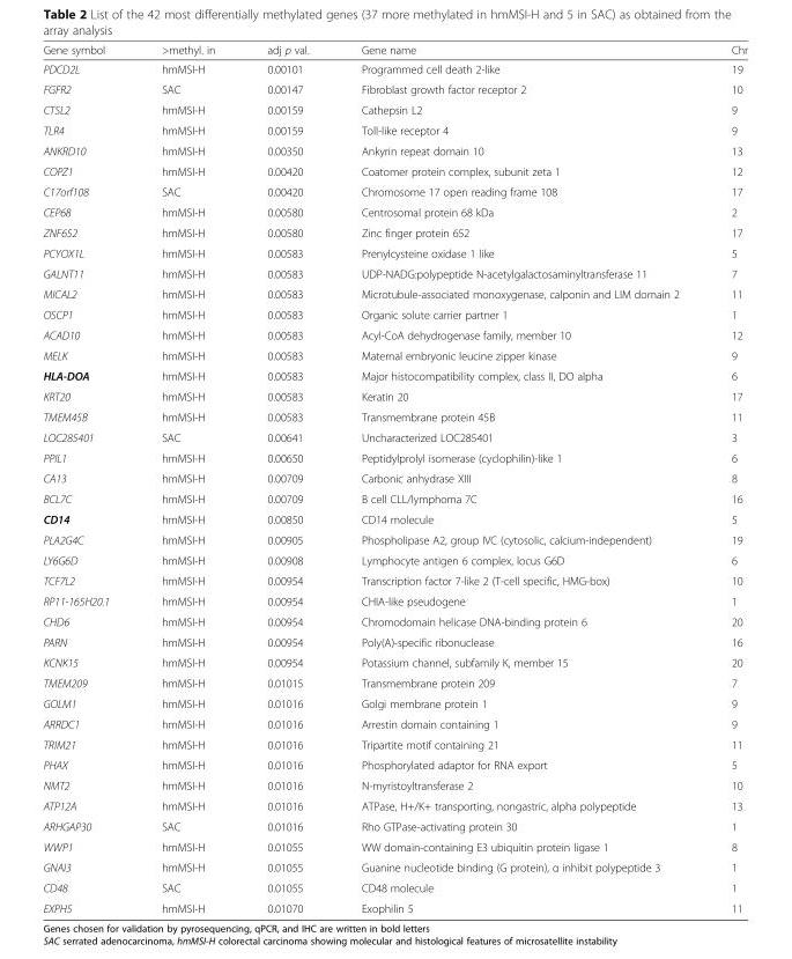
<table><thead><tr><td>Gene symbol</td><td>&gt;methyl. in</td><td>adj p val.</td><td>Gene name</td><td>Chr</td></tr></thead><tbody><tr><td>PDCD2L</td><td>hmMSI-H</td><td>0.00101</td><td>Programmed cell death 2-like</td><td>19</td></tr><tr><td>FGFR2</td><td>SAC</td><td>0.00147</td><td>Fibroblast growth factor receptor 2</td><td>10</td></tr><tr><td>CTSL2</td><td>hmMSI-H</td><td>0.00159</td><td>Cathepsin L2</td><td>9</td></tr><tr><td>TLR4</td><td>hmMSI-H</td><td>0.00159</td><td>Toll-like receptor 4</td><td>9</td></tr><tr><td>ANKRD10</td><td>hmMSI-H</td><td>0.00350</td><td>Ankyrin repeat domain 10</td><td>13</td></tr><tr><td>COPZ1</td><td>hmMSI-H</td><td>0.00420</td><td>Coatomer protein complex, subunit zeta 1</td><td>12</td></tr><tr><td>C17orf108</td><td>SAC</td><td>0.00420</td><td>Chromosome 17 open reading frame 108</td><td>17</td></tr><tr><td>CEP68</td><td>hmMSI-H</td><td>0.00580</td><td>Centrosomal protein 68 kDa</td><td>2</td></tr><tr><td>ZNF652</td><td>hmMSI-H</td><td>0.00580</td><td>Zinc finger protein 652</td><td>17</td></tr><tr><td>PCYOX1L</td><td>hmMSI-H</td><td>0.00583</td><td>Prenylcysteine oxidase 1 like</td><td>5</td></tr><tr><td>GALNT11</td><td>hmMSI-H</td><td>0.00583</td><td>UDP-NADG:polypeptide N-acetylgalactosaminyltransferase 11</td><td>7</td></tr><tr><td>MICAL2</td><td>hmMSI-H</td><td>0.00583</td><td>Microtubule-associated monoxygenase, calponin and LIM domain 2</td><td>11</td></tr><tr><td>OSCP1</td><td>hmMSI-H</td><td>0.00583</td><td>Organic solute carrier partner 1</td><td>1</td></tr><tr><td>ACAD10</td><td>hmMSI-H</td><td>0.00583</td><td>Acyl-CoA dehydrogenase family, member 10</td><td>12</td></tr><tr><td>MELK</td><td>hmMSI-H</td><td>0.00583</td><td>Maternal embryonic leucine zipper kinase</td><td>9</td></tr><tr><td>HLA-DOA</td><td>hmMSI-H</td><td>0.00583</td><td>Major histocompatibility complex, class II, DO alpha</td><td>6</td></tr><tr><td>KRT20</td><td>hmMSI-H</td><td>0.00583</td><td>Keratin 20</td><td>17</td></tr><tr><td>TMEM45B</td><td>hmMSI-H</td><td>0.00583</td><td>Transmembrane protein 45B</td><td>11</td></tr><tr><td>LOC285401</td><td>SAC</td><td>0.00641</td><td>Uncharacterized LOC285401</td><td>3</td></tr><tr><td>PPIL1</td><td>hmMSI-H</td><td>0.00650</td><td>Peptidylprolyl isomerase (cyclophilin)-like 1</td><td>6</td></tr><tr><td>CA13</td><td>hmMSI-H</td><td>0.00709</td><td>Carbonic anhydrase XIII</td><td>8</td></tr><tr><td>BCL7C</td><td>hmMSI-H</td><td>0.00709</td><td>B cell CLL/lymphoma 7C</td><td>16</td></tr><tr><td>CD14</td><td>hmMSI-H</td><td>0.00850</td><td>CD14 molecule</td><td>5</td></tr><tr><td>PLA2G4C</td><td>hmMSI-H</td><td>0.00905</td><td>Phospholipase A2, group IVC (cytosolic, calcium-independent)</td><td>19</td></tr><tr><td>LY6G6D</td><td>hmMSI-H</td><td>0.00908</td><td>Lymphocyte antigen 6 complex, locus G6D</td><td>6</td></tr><tr><td>TCF7L2</td><td>hmMSI-H</td><td>0.00954</td><td>Transcription factor 7-like 2 (T-cell specific, HMG-box)</td><td>10</td></tr><tr><td>RP11-165H20.1</td><td>hmMSI-H</td><td>0.00954</td><td>CHIA-like pseudogene</td><td>1</td></tr><tr><td>CHD6</td><td>hmMSI-H</td><td>0.00954</td><td>Chromodomain helicase DNA-binding protein 6</td><td>20</td></tr><tr><td>PARN</td><td>hmMSI-H</td><td>0.00954</td><td>Poly(A)-specific ribonuclease</td><td>16</td></tr><tr><td>KCNK15</td><td>hmMSI-H</td><td>0.00954</td><td>Potassium channel, subfamily K, member 15</td><td>20</td></tr><tr><td>TMEM209</td><td>hmMSI-H</td><td>0.01015</td><td>Transmembrane protein 209</td><td>7</td></tr><tr><td>GOLM1</td><td>hmMSI-H</td><td>0.01016</td><td>Golgi membrane protein 1</td><td>9</td></tr><tr><td>ARRDC1</td><td>hmMSI-H</td><td>0.01016</td><td>Arrestin domain containing 1</td><td>9</td></tr><tr><td>TRIM21</td><td>hmMSI-H</td><td>0.01016</td><td>Tripartite motif containing 21</td><td>11</td></tr><tr><td>PHAX</td><td>hmMSI-H</td><td>0.01016</td><td>Phosphorylated adaptor for RNA export</td><td>5</td></tr><tr><td>NMT2</td><td>hmMSI-H</td><td>0.01016</td><td>N-myristoyltransferase 2</td><td>10</td></tr><tr><td>ATP12A</td><td>hmMSI-H</td><td>0.01016</td><td>ATPase, H+/K+ transporting, nongastric, alpha polypeptide</td><td>13</td></tr><tr><td>ARHGAP30</td><td>SAC</td><td>0.01016</td><td>Rho GTPase-activating protein 30</td><td>1</td></tr><tr><td>WWP1</td><td>hmMSI-H</td><td>0.01055</td><td>WW domain-containing E3 ubiquitin protein ligase 1</td><td>8</td></tr><tr><td>GNAI3</td><td>hmMSI-H</td><td>0.01055</td><td>Guanine nucleotide binding (G protein), α inhibit polypeptide 3</td><td>1</td></tr><tr><td>CD48</td><td>SAC</td><td>0.01055</td><td>CD48 molecule</td><td>1</td></tr><tr><td>EXPH5</td><td>hmMSI-H</td><td>0.01070</td><td>Exophilin 5</td><td>11</td></tr></tbody></table>